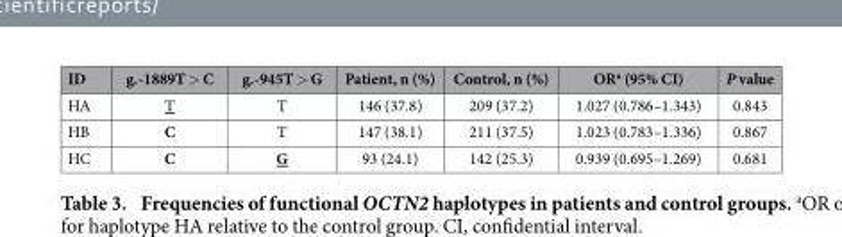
<table><thead><tr><td>ID</td><td>g.-1889T &gt; C</td><td>g.-945T &gt; G</td><td>Patient, n (%)</td><td>Control, n (%)</td><td>OR<sup>a</sup> (95% CI)</td><td>P value</td></tr></thead><tbody><tr><td>HA</td><td>T</td><td>T</td><td>146 (37.8)</td><td>209 (37.2)</td><td>1.027 (0.786–1.343)</td><td>0.843</td></tr><tr><td>HB</td><td>C</td><td>T</td><td>147 (38.1)</td><td>211 (37.5)</td><td>1.023 (0.783–1.336)</td><td>0.867</td></tr><tr><td>HC</td><td>C</td><td>G</td><td>93 (24.1)</td><td>142 (25.3)</td><td>0.939 (0.695–1.269)</td><td>0.681</td></tr></tbody></table>